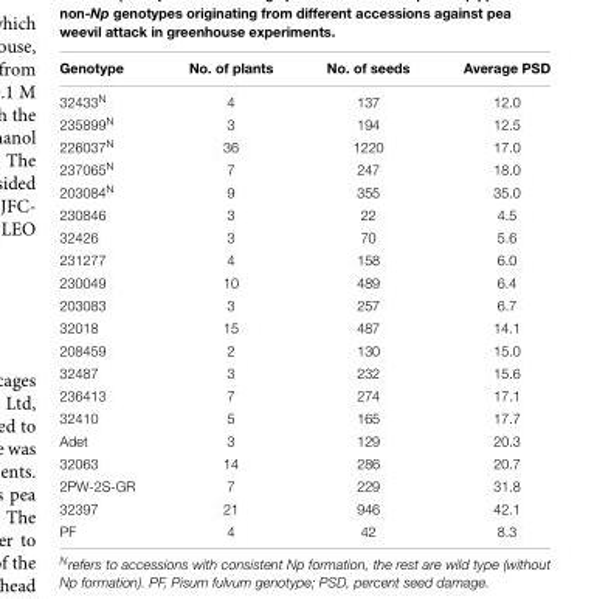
<table><thead><tr><td>Genotype</td><td>No. of plants</td><td>No. of seeds</td><td>Average PSD</td></tr></thead><tbody><tr><td>32433<sup>N</sup></td><td>4</td><td>137</td><td>12.0</td></tr><tr><td>235899<sup>N</sup></td><td>3</td><td>194</td><td>12.5</td></tr><tr><td>226037<sup>N</sup></td><td>36</td><td>1220</td><td>17.0</td></tr><tr><td>237065<sup>N</sup></td><td>7</td><td>247</td><td>18.0</td></tr><tr><td>203084<sup>N</sup></td><td>9</td><td>355</td><td>35.0</td></tr><tr><td>230846</td><td>3</td><td>22</td><td>4.5</td></tr><tr><td>32426</td><td>3</td><td>70</td><td>5.6</td></tr><tr><td>231277</td><td>4</td><td>158</td><td>6.0</td></tr><tr><td>230049</td><td>10</td><td>489</td><td>6.4</td></tr><tr><td>203083</td><td>3</td><td>257</td><td>6.7</td></tr><tr><td>32018</td><td>15</td><td>487</td><td>14.1</td></tr><tr><td>208459</td><td>2</td><td>130</td><td>15.0</td></tr><tr><td>32487</td><td>3</td><td>232</td><td>15.6</td></tr><tr><td>236413</td><td>7</td><td>274</td><td>17.1</td></tr><tr><td>32410</td><td>5</td><td>165</td><td>17.7</td></tr><tr><td>Adet</td><td>3</td><td>129</td><td>20.3</td></tr><tr><td>32063</td><td>14</td><td>286</td><td>20.7</td></tr><tr><td>2PW-2S-GR</td><td>7</td><td>229</td><td>31.8</td></tr><tr><td>32397</td><td>21</td><td>946</td><td>42.1</td></tr><tr><td>PF</td><td>4</td><td>42</td><td>8.3</td></tr></tbody></table>